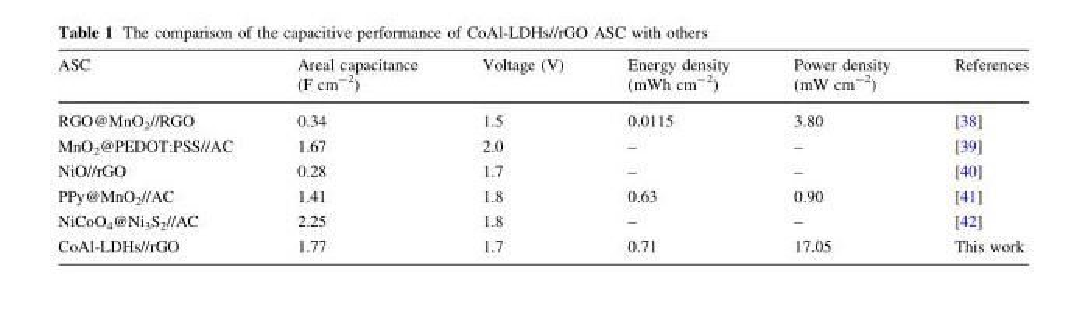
<table><thead><tr><td>ASC</td><td>Areal capacitance (F cm<sup>-2</sup>)</td><td>Voltage (V)</td><td>Energy density (mWh cm<sup>-2</sup>)</td><td>Power density (mW cm<sup>-2</sup>)</td><td>References</td></tr></thead><tbody><tr><td>RGO@MnO<sub>2</sub>//RGO</td><td>0.34</td><td>1.5</td><td>0.0115</td><td>3.80</td><td>[38]</td></tr><tr><td>MnO<sub>2</sub>@PEDOT:PSS//AC</td><td>1.67</td><td>2.0</td><td>–</td><td>–</td><td>[39]</td></tr><tr><td>NiO//rGO</td><td>0.28</td><td>1.7</td><td>–</td><td>–</td><td>[40]</td></tr><tr><td>PPy@MnO<sub>2</sub>//AC</td><td>1.41</td><td>1.8</td><td>0.63</td><td>0.90</td><td>[41]</td></tr><tr><td>NiCoO<sub>4</sub>@Ni<sub>3</sub>S<sub>2</sub>//AC</td><td>2.25</td><td>1.8</td><td>–</td><td>–</td><td>[42]</td></tr><tr><td>CoAl-LDHs//rGO</td><td>1.77</td><td>1.7</td><td>0.71</td><td>17.05</td><td>This work</td></tr></tbody></table>